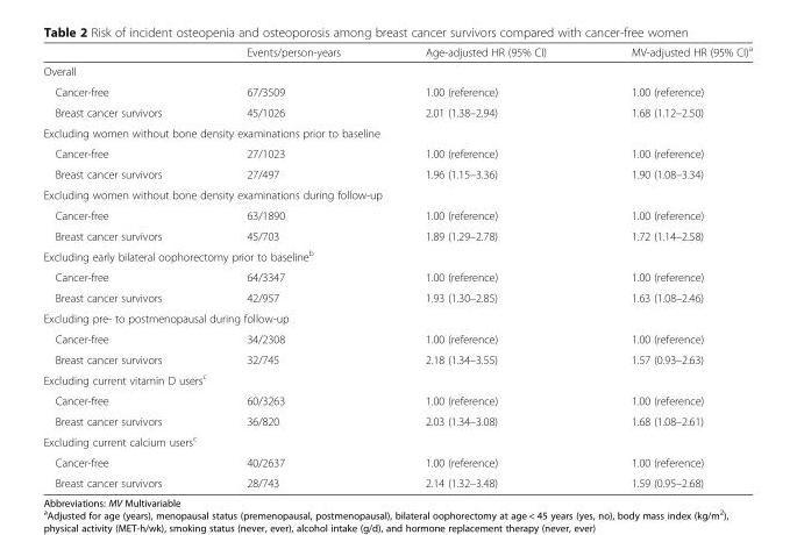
<table><thead><tr><td></td><td>Events/person-years</td><td>Age-adjusted HR (95% CI)</td><td>MV-adjusted HR (95% CI)<sup>a</sup></td></tr></thead><tbody><tr><td colspan="4">Overall</td></tr><tr><td>Cancer-free</td><td>67/3509</td><td>1.00 (reference)</td><td>1.00 (reference)</td></tr><tr><td>Breast cancer survivors</td><td>45/1026</td><td>2.01 (1.38–2.94)</td><td>1.68 (1.12–2.50)</td></tr><tr><td colspan="4">Excluding women without bone density examinations prior to baseline</td></tr><tr><td>Cancer-free</td><td>27/1023</td><td>1.00 (reference)</td><td>1.00 (reference)</td></tr><tr><td>Breast cancer survivors</td><td>27/497</td><td>1.96 (1.15–3.36)</td><td>1.90 (1.08–3.34)</td></tr><tr><td colspan="4">Excluding women without bone density examinations during follow-up</td></tr><tr><td>Cancer-free</td><td>63/1890</td><td>1.00 (reference)</td><td>1.00 (reference)</td></tr><tr><td>Breast cancer survivors</td><td>45/703</td><td>1.89 (1.29–2.78)</td><td>1.72 (1.14–2.58)</td></tr><tr><td colspan="4">Excluding early bilateral oophorectomy prior to baseline<sup>b</sup></td></tr><tr><td>Cancer-free</td><td>64/3347</td><td>1.00 (reference)</td><td>1.00 (reference)</td></tr><tr><td>Breast cancer survivors</td><td>42/957</td><td>1.93 (1.30–2.85)</td><td>1.63 (1.08–2.46)</td></tr><tr><td colspan="4">Excluding pre- to postmenopausal during follow-up</td></tr><tr><td>Cancer-free</td><td>34/2308</td><td>1.00 (reference)</td><td>1.00 (reference)</td></tr><tr><td>Breast cancer survivors</td><td>32/745</td><td>2.18 (1.34–3.55)</td><td>1.57 (0.93–2.63)</td></tr><tr><td colspan="4">Excluding current vitamin D users<sup>c</sup></td></tr><tr><td>Cancer-free</td><td>60/3263</td><td>1.00 (reference)</td><td>1.00 (reference)</td></tr><tr><td>Breast cancer survivors</td><td>36/820</td><td>2.03 (1.34–3.08)</td><td>1.68 (1.08–2.61)</td></tr><tr><td colspan="4">Excluding current calcium users<sup>c</sup></td></tr><tr><td>Cancer-free</td><td>40/2637</td><td>1.00 (reference)</td><td>1.00 (reference)</td></tr><tr><td>Breast cancer survivors</td><td>28/743</td><td>2.14 (1.32–3.48)</td><td>1.59 (0.95–2.68)</td></tr></tbody></table>